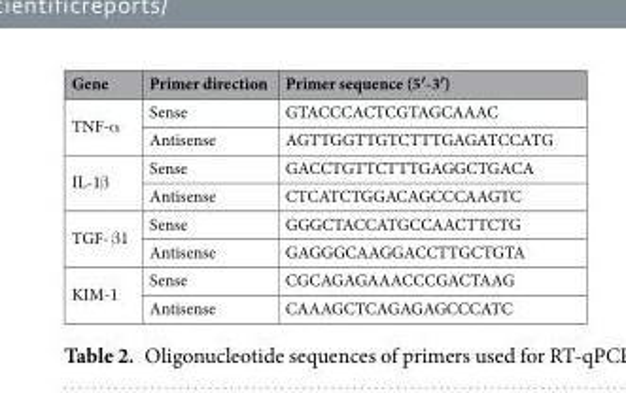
<table><thead><tr><td>Gene</td><td>Primer direction</td><td>Primer sequence (5′-3′)</td></tr></thead><tbody><tr><td rowspan="2">TNF-α</td><td>Sense</td><td>GTACCCACTCGTAGCAAAC</td></tr><tr><td>Antisense</td><td>AGTTGGTTGTCTTTGAGATCCATG</td></tr><tr><td rowspan="2">IL-1β</td><td>Sense</td><td>GACCTGTTCTTTGAGGCTGACA</td></tr><tr><td>Antisense</td><td>CTCATCTGGACAGCCCAAGTC</td></tr><tr><td rowspan="2">TGF- β1</td><td>Sense</td><td>GGGCTACCATGCCAACTTCTG</td></tr><tr><td>Antisense</td><td>GAGGGCAAGGACCTTGCTGTA</td></tr><tr><td rowspan="2">KIM-1</td><td>Sense</td><td>CGCAGAGAAACCCGACTAAG</td></tr><tr><td>Antisense</td><td>CAAAGCTCAGAGAGCCCATC</td></tr></tbody></table>